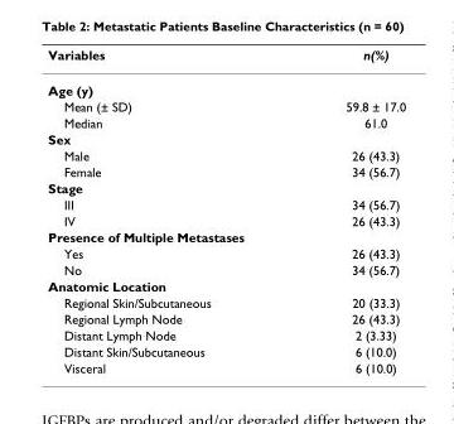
<table><thead><tr><td>Variables</td><td>n(%)</td></tr></thead><tbody><tr><td colspan="2">Age (y)</td></tr><tr><td>Mean (± SD)</td><td>59.8 ± 17.0</td></tr><tr><td>Median</td><td>61.0</td></tr><tr><td colspan="2">Sex</td></tr><tr><td>Male</td><td>26 (43.3)</td></tr><tr><td>Female</td><td>34 (56.7)</td></tr><tr><td colspan="2">Stage</td></tr><tr><td>III</td><td>34 (56.7)</td></tr><tr><td>IV</td><td>26 (43.3)</td></tr><tr><td colspan="2">Presence of Multiple Metastases</td></tr><tr><td>Yes</td><td>26 (43.3)</td></tr><tr><td>No</td><td>34 (56.7)</td></tr><tr><td colspan="2">Anatomic Location</td></tr><tr><td>Regional Skin/Subcutaneous</td><td>20 (33.3)</td></tr><tr><td>Regional Lymph Node</td><td>26 (43.3)</td></tr><tr><td>Distant Lymph Node</td><td>2 (3.33)</td></tr><tr><td>Distant Skin/Subcutaneous</td><td>6 (10.0)</td></tr><tr><td>Visceral</td><td>6 (10.0)</td></tr></tbody></table>